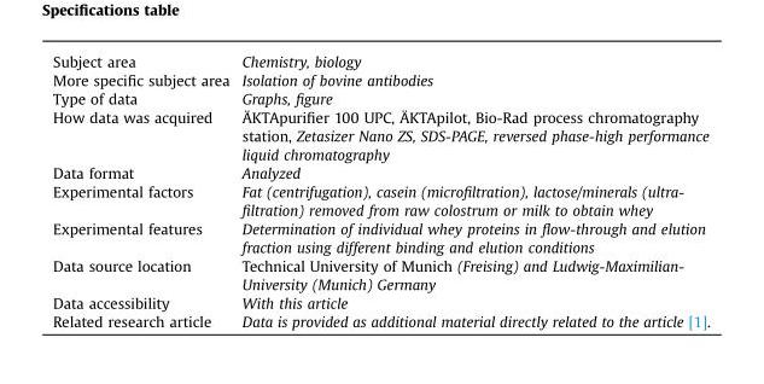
<table><tbody><tr><td>Subject area</td><td>Chemistry, biology</td></tr><tr><td>More specific subject area</td><td>Isolation of bovine antibodies</td></tr><tr><td>Type of data</td><td>Graphs, figure</td></tr><tr><td>How data was acquired</td><td>ÄKTApurifier 100 UPC, ÄKTApilot, Bio-Rad process chromatography station, Zetasizer Nano ZS, SDS-PAGE, reversed phase-high performance liquid chromatography</td></tr><tr><td>Data format</td><td>Analyzed</td></tr><tr><td>Experimental factors</td><td>Fat (centrifugation), casein (microfiltration), lactose/minerals (ultra- filtration) removed from raw colostrum or milk to obtain whey</td></tr><tr><td>Experimental features</td><td>Determination of individual whey proteins in flow-through and elution fraction using different binding and elution conditions</td></tr><tr><td>Data source location</td><td>Technical University of Munich (Freising) and Ludwig-Maximilian- University (Munich) Germany</td></tr><tr><td>Data accessibility</td><td>With this article</td></tr><tr><td>Related research article</td><td>Data is provided as additional material directly related to the article [1].</td></tr></tbody></table>